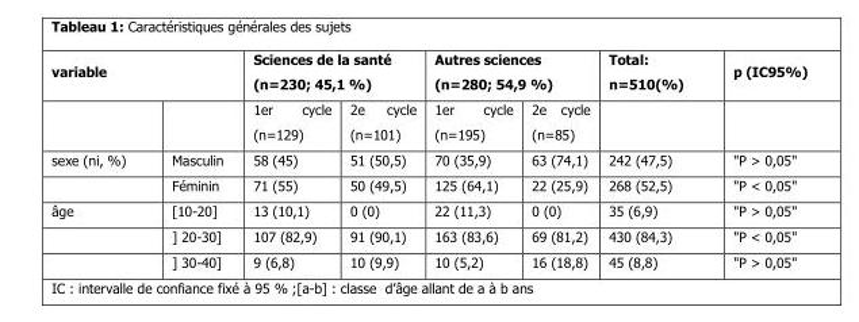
<table><thead><tr><td colspan="2">variable</td><td colspan="2">Sciences de la santé (n=230; 45,1 %)</td><td colspan="2">Autres sciences (n=280; 54,9 %)</td><td rowspan="2">Total: n=510(%)</td><td rowspan="2">p (IC95%)</td></tr><tr><td></td><td></td><td>1er cycle (n=129)</td><td>2e cycle (n=101)</td><td>1er cycle (n=195)</td><td>2e cycle (n=85)</td></tr></thead><tbody><tr><td rowspan="2">sexe (ni, %)</td><td>Masculin</td><td>58 (45)</td><td>51 (50,5)</td><td>70 (35,9)</td><td>63 (74,1)</td><td>242 (47,5)</td><td>&quot;P &gt; 0,05&quot;</td></tr><tr><td>Féminin</td><td>71 (55)</td><td>50 (49,5)</td><td>125 (64,1)</td><td>22 (25,9)</td><td>268 (52,5)</td><td>&quot;P &lt; 0,05&quot;</td></tr><tr><td rowspan="3">âge</td><td>[10-20]</td><td>13 (10,1)</td><td>0 (0)</td><td>22 (11,3)</td><td>0 (0)</td><td>35 (6,9)</td><td>&quot;P &gt; 0,05&quot;</td></tr><tr><td>] 20-30]</td><td>107 (82,9)</td><td>91 (90,1)</td><td>163 (83,6)</td><td>69 (81,2)</td><td>430 (84,3)</td><td>&quot;P &lt; 0,05&quot;</td></tr><tr><td>] 30-40]</td><td>9 (6,8)</td><td>10 (9,9)</td><td>10 (5,2)</td><td>16 (18,8)</td><td>45 (8,8)</td><td>&quot;P &gt; 0,05&quot;</td></tr></tbody></table>